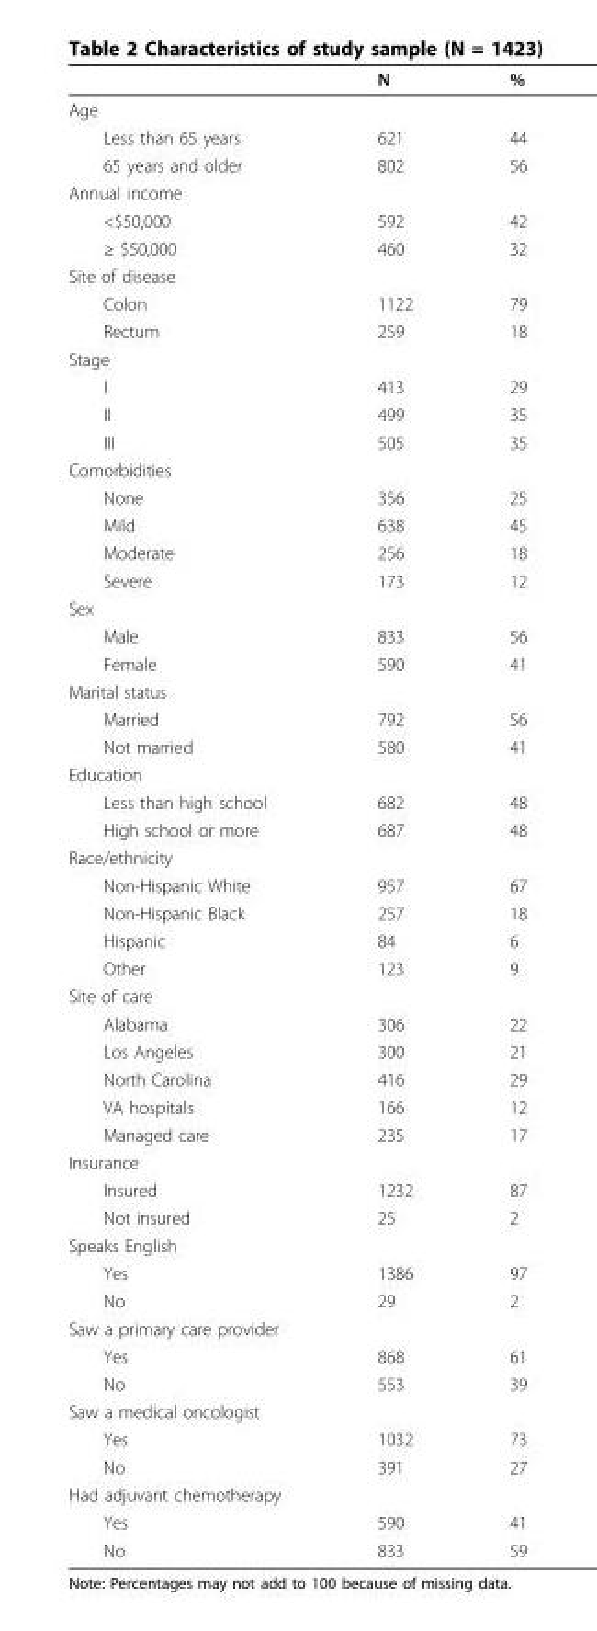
<table><thead><tr><td></td><td>N</td><td>%</td></tr></thead><tbody><tr><td colspan="3">Age</td></tr><tr><td>Less than 65 years</td><td>621</td><td>44</td></tr><tr><td>65 years and older</td><td>802</td><td>56</td></tr><tr><td colspan="3">Annual income</td></tr><tr><td>&lt;$50,000</td><td>592</td><td>42</td></tr><tr><td>≥ $50,000</td><td>460</td><td>32</td></tr><tr><td colspan="3">Site of disease</td></tr><tr><td>Colon</td><td>1122</td><td>79</td></tr><tr><td>Rectum</td><td>259</td><td>18</td></tr><tr><td colspan="3">Stage</td></tr><tr><td>I</td><td>413</td><td>29</td></tr><tr><td>II</td><td>499</td><td>35</td></tr><tr><td>III</td><td>505</td><td>35</td></tr><tr><td colspan="3">Comorbidities</td></tr><tr><td>None</td><td>356</td><td>25</td></tr><tr><td>Mild</td><td>638</td><td>45</td></tr><tr><td>Moderate</td><td>256</td><td>18</td></tr><tr><td>Severe</td><td>173</td><td>12</td></tr><tr><td colspan="3">Sex</td></tr><tr><td>Male</td><td>833</td><td>56</td></tr><tr><td>Female</td><td>590</td><td>41</td></tr><tr><td colspan="3">Marital status</td></tr><tr><td>Married</td><td>792</td><td>56</td></tr><tr><td>Not married</td><td>580</td><td>41</td></tr><tr><td colspan="3">Education</td></tr><tr><td>Less than high school</td><td>682</td><td>48</td></tr><tr><td>High school or more</td><td>687</td><td>48</td></tr><tr><td colspan="3">Race/ethnicity</td></tr><tr><td>Non-Hispanic White</td><td>957</td><td>67</td></tr><tr><td>Non-Hispanic Black</td><td>257</td><td>18</td></tr><tr><td>Hispanic</td><td>84</td><td>6</td></tr><tr><td>Other</td><td>123</td><td>9</td></tr><tr><td colspan="3">Site of care</td></tr><tr><td>Alabama</td><td>306</td><td>22</td></tr><tr><td>Los Angeles</td><td>300</td><td>21</td></tr><tr><td>North Carolina</td><td>416</td><td>29</td></tr><tr><td>VA hospitals</td><td>166</td><td>12</td></tr><tr><td>Managed care</td><td>235</td><td>17</td></tr><tr><td colspan="3">Insurance</td></tr><tr><td>Insured</td><td>1232</td><td>87</td></tr><tr><td>Not insured</td><td>25</td><td>2</td></tr><tr><td colspan="3">Speaks English</td></tr><tr><td>Yes</td><td>1386</td><td>97</td></tr><tr><td>No</td><td>29</td><td>2</td></tr><tr><td colspan="3">Saw a primary care provider</td></tr><tr><td>Yes</td><td>868</td><td>61</td></tr><tr><td>No</td><td>553</td><td>39</td></tr><tr><td colspan="3">Saw a medical oncologist</td></tr><tr><td>Yes</td><td>1032</td><td>73</td></tr><tr><td>No</td><td>391</td><td>27</td></tr><tr><td colspan="3">Had adjuvant chemotherapy</td></tr><tr><td>Yes</td><td>590</td><td>41</td></tr><tr><td>No</td><td>833</td><td>59</td></tr></tbody></table>